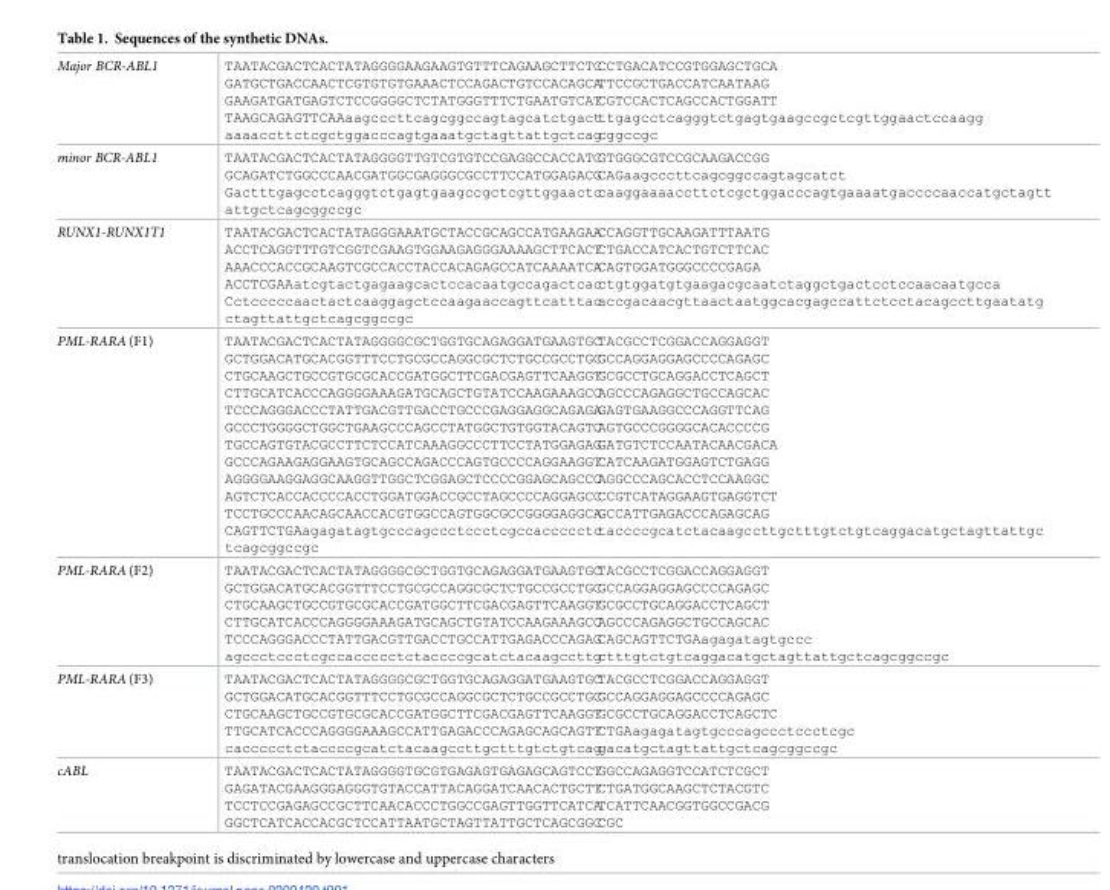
<table><tbody><tr><td>Major BCR-ABL1</td><td>TAATACGACTCACTATAGGGGAAGAAGTGTTTCAGAAGCTTCTCCCTGACATCCGTGGAGCTGCA GATGCTGACCAACTCGTGTGTGAAACTCCAGACTGTCCACAGCATTCCGCTGACCATCAATAAG GAAGATGATGAGTCTCCGGGGCTCTATGGGTTTCTGAATGTCATCGTCCACTCAGCCACTGGATT TAAGCAGAGTTCAAaagcccttcagcggccagtagcatctgactttgagcctcagggtctgagtgaagccgctcgttggaactccaagg aaaaccttctcgctggacccagtgaaatgctagttattgctcagcggccgc</td></tr><tr><td>minor BCR-ABL1</td><td>TAATACGACTCACTATAGGGGTTGTCGTGTCCGAGGCCACCATCGTGGGCGTCCGCAAGACCGG GCAGATCTGGCCCAACGATGGCGAGGGCGCCTTCCATGGAGACGCAGaagcccttcagcggccagtagcatct Gactttgagcctcagggtctgagtgaagccgctcgttggaactccaaggaaaaccttctcgctggacccagtgaaaatgaccccaaccatgctagtt attgctcagcggccgc</td></tr><tr><td>RUNX1-RUNX1T1</td><td>TAATACGACTCACTATAGGGAAATGCTACCGCAGCCATGAAGAACCAGGTTGCAAGATTTAATG ACCTCAGGTTTGTCGGTCGAAGTGGAAGAGGGAAAAGCTTCACTCTGACCATCACTGTCTTCAC AAACCCACCGCAAGTCGCCACCTACCACAGAGCCATCAAAATCACAGTGGATGGGCCCCGAGA ACCTCGAAatcgtactgagaagcactccacaatgccagactcacctgtggatgtgaagacgcaatctaggctgactcctccaacaatgcca Cctcccccaactactcaaggagctccaagaaccagttcatttacaccgacaacgttaactaatggcacgagccattctcctacagccttgaatatg ctagttattgctcagcggccgc</td></tr><tr><td>PML-RARA (F1)</td><td>TAATACGACTCACTATAGGGGCGCTGGTGCAGAGGATGAAGTGCTACGCCTCGGACCAGGAGGT GCTGGACATGCACGGTTTCCTGCGCCAGGCGCTCTGCCGCCTGCGCCAGGAGGAGCCCCAGAGC CTGCAAGCTGCCGTGCGCACCGATGGCTTCGACGAGTTCAAGGTGCGCCTGCAGGACCTCAGCT CTTGCATCACCCAGGGGAAAGATGCAGCTGTATCCAAGAAAGCCAGCCCAGAGGCTGCCAGCAC TCCCAGGGACCCTATTGACGTTGACCTGCCCGAGGAGGCAGAGAGAGTGAAGGCCCAGGTTCAG GCCCTGGGGCTGGCTGAAGCCCAGCCTATGGCTGTGGTACAGTCAGTGCCCGGGGCACACCCCG TGCCAGTGTACGCCTTCTCCATCAAAGGCCCTTCCTATGGAGAGGATGTCTCCAATACAACGACA GCCCAGAAGAGGAAGTGCAGCCAGACCCAGTGCCCCAGGAAGGTCATCAAGATGGAGTCTGAGG AGGGGAAGGAGGCAAGGTTGGCTCGGAGCTCCCCGGAGCAGCCCAGGCCCAGCACCTCCAAGGC AGTCTCACCACCCCACCTGGATGGACCGCCTAGCCCCAGGAGCCCCGTCATAGGAAGTGAGGTCT TCCTGCCCAACAGCAACCACGTGGCCAGTGGCGCCGGGGAGGCAGCCATTGAGACCCAGAGCAG CAGTTCTGAagagatagtgcccagccctccctcgccaccccctctaccccgcatctacaagccttgctttgtctgtcaggacatgctagttattgc tcagcggccgc</td></tr><tr><td>PML-RARA (F2)</td><td>TAATACGACTCACTATAGGGGCGCTGGTGCAGAGGATGAAGTGCTACGCCTCGGACCAGGAGGT GCTGGACATGCACGGTTTCCTGCGCCAGGCGCTCTGCCGCCTGCGCCAGGAGGAGCCCCAGAGC CTGCAAGCTGCCGTGCGCACCGATGGCTTCGACGAGTTCAAGGTGCGCCTGCAGGACCTCAGCT CTTGCATCACCCAGGGGAAAGATGCAGCTGTATCCAAGAAAGCCAGCCCAGAGGCTGCCAGCAC TCCCAGGGACCCTATTGACGTTGACCTGCCATTGAGACCCAGAGCAGCAGTTCTGAagagatagtgccc agccctccctcgccaccccctctaccccgcatctacaagccttgctttgtctgtcaggacatgctagttattgctcagcggccgc</td></tr><tr><td>PML-RARA (F3)</td><td>TAATACGACTCACTATAGGGGCGCTGGTGCAGAGGATGAAGTGCTACGCCTCGGACCAGGAGGT GCTGGACATGCACGGTTTCCTGCGCCAGGCGCTCTGCCGCCTGCGCCAGGAGGAGCCCCAGAGC CTGCAAGCTGCCGTGCGCACCGATGGCTTCGACGAGTTCAAGGTGCGCCTGCAGGACCTCAGCTC TTGCATCACCCAGGGGAAAGCCATTGAGACCCAGAGCAGCAGTTCTGAagagatagtgcccagccctccctcgc caccccctctaccccgcatctacaagccttgctttgtctgtcaggacatgctagttattgctcagcggccgc</td></tr><tr><td>cABL</td><td>TAATACGACTCACTATAGGGGTGCGTGAGAGTGAGAGCAGTCCTGGCCAGAGGTCCATCTCGCT GAGATACGAAGGGAGGGTGTACCATTACAGGATCAACACTGCTTCTGATGGCAAGCTCTACGTC TCCTCCGAGAGCCGCTTCAACACCCTGGCCGAGTTGGTTCATCATCATTCAACGGTGGCCGACG GGCTCATCACCACGCTCCATTAATGCTAGTTATTGCTCAGCGGCCGC</td></tr></tbody></table>